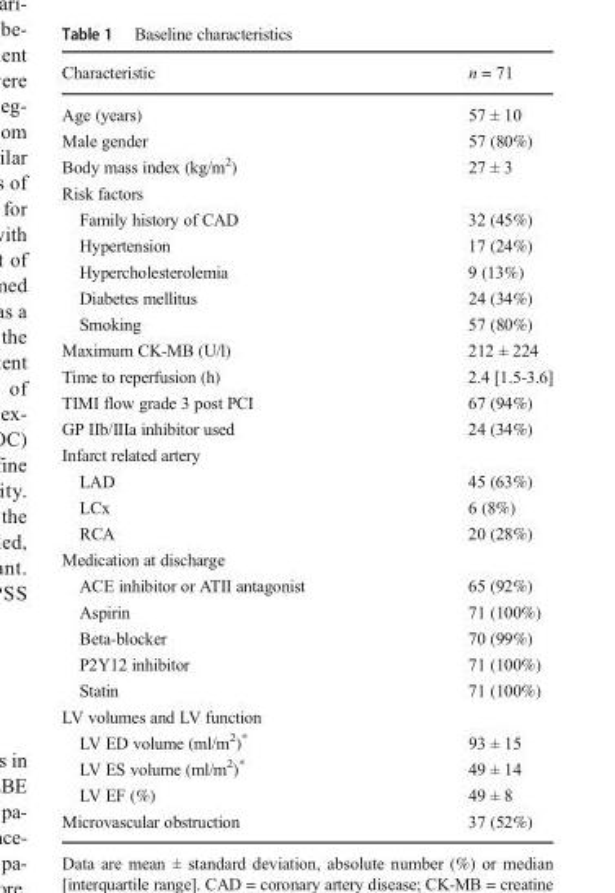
<table><thead><tr><td>Characteristic</td><td>n = 71</td></tr></thead><tbody><tr><td>Age (years)</td><td>57 ± 10</td></tr><tr><td>Male gender</td><td>57 (80%)</td></tr><tr><td>Body mass index (kg/m<sup>2</sup>)</td><td>27 ± 3</td></tr><tr><td colspan="2">Risk factors</td></tr><tr><td>Family history of CAD</td><td>32 (45%)</td></tr><tr><td>Hypertension</td><td>17 (24%)</td></tr><tr><td>Hypercholesterolemia</td><td>9 (13%)</td></tr><tr><td>Diabetes mellitus</td><td>24 (34%)</td></tr><tr><td>Smoking</td><td>57 (80%)</td></tr><tr><td>Maximum CK-MB (U/l)</td><td>212 ± 224</td></tr><tr><td>Time to reperfusion (h)</td><td>2.4 [1.5-3.6]</td></tr><tr><td>TIMI flow grade 3 post PCI</td><td>67 (94%)</td></tr><tr><td>GP IIb/IIIa inhibitor used</td><td>24 (34%)</td></tr><tr><td colspan="2">Infarct related artery</td></tr><tr><td>LAD</td><td>45 (63%)</td></tr><tr><td>LCx</td><td>6 (8%)</td></tr><tr><td>RCA</td><td>20 (28%)</td></tr><tr><td colspan="2">Medication at discharge</td></tr><tr><td>ACE inhibitor or ATII antagonist</td><td>65 (92%)</td></tr><tr><td>Aspirin</td><td>71 (100%)</td></tr><tr><td>Beta-blocker</td><td>70 (99%)</td></tr><tr><td>P2Y12 inhibitor</td><td>71 (100%)</td></tr><tr><td>Statin</td><td>71 (100%)</td></tr><tr><td colspan="2">LV volumes and LV function</td></tr><tr><td>LV ED volume (ml/m<sup>2</sup>)*</td><td>93 ± 15</td></tr><tr><td>LV ES volume (ml/m<sup>2</sup>)*</td><td>49 ± 14</td></tr><tr><td>LV EF (%)</td><td>49 ± 8</td></tr><tr><td>Microvascular obstruction</td><td>37 (52%)</td></tr></tbody></table>